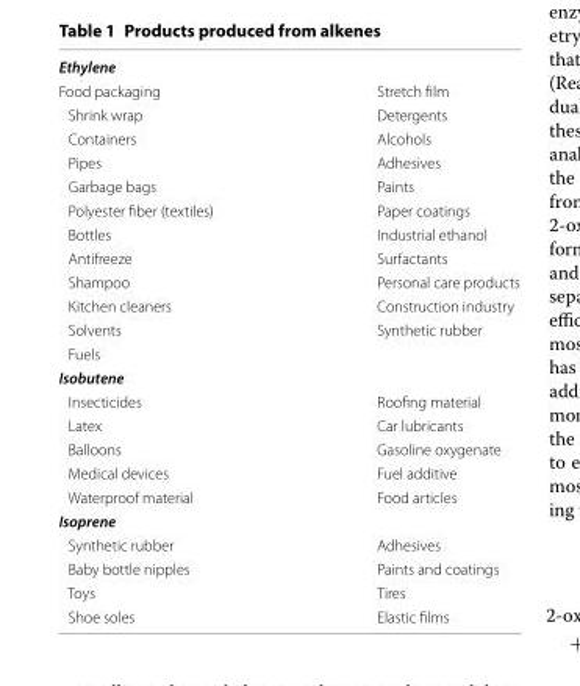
<table><tbody><tr><td colspan="2">Ethylene</td></tr><tr><td>Food packaging</td><td>Stretch film</td></tr><tr><td>Shrink wrap</td><td>Detergents</td></tr><tr><td>Containers</td><td>Alcohols</td></tr><tr><td>Pipes</td><td>Adhesives</td></tr><tr><td>Garbage bags</td><td>Paints</td></tr><tr><td>Polyester fiber (textiles)</td><td>Paper coatings</td></tr><tr><td>Bottles</td><td>Industrial ethanol</td></tr><tr><td>Antifreeze</td><td>Surfactants</td></tr><tr><td>Shampoo</td><td>Personal care products</td></tr><tr><td>Kitchen cleaners</td><td>Construction industry</td></tr><tr><td>Solvents</td><td>Synthetic rubber</td></tr><tr><td colspan="2">Fuels</td></tr><tr><td colspan="2">Isobutene</td></tr><tr><td>Insecticides</td><td>Roofing material</td></tr><tr><td>Latex</td><td>Car lubricants</td></tr><tr><td>Balloons</td><td>Gasoline oxygenate</td></tr><tr><td>Medical devices</td><td>Fuel additive</td></tr><tr><td>Waterproof material</td><td>Food articles</td></tr><tr><td colspan="2">Isoprene</td></tr><tr><td>Synthetic rubber</td><td>Adhesives</td></tr><tr><td>Baby bottle nipples</td><td>Paints and coatings</td></tr><tr><td>Toys</td><td>Tires</td></tr><tr><td>Shoe soles</td><td>Elastic films</td></tr></tbody></table>